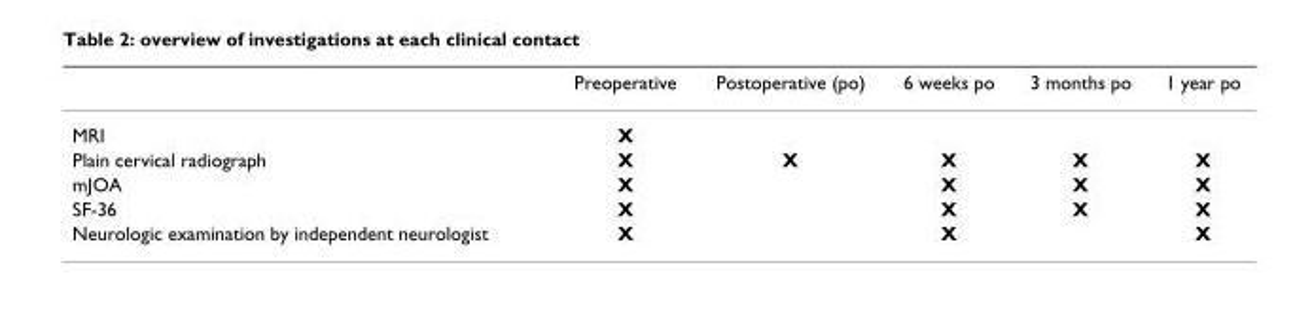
<table><thead><tr><td></td><td>Preoperative</td><td>Postoperative (po)</td><td>6 weeks po</td><td>3 months po</td><td>1 year po</td></tr></thead><tbody><tr><td>MRI</td><td>X</td><td></td><td></td><td></td><td></td></tr><tr><td>Plain cervical radiograph</td><td>X</td><td>X</td><td>X</td><td>X</td><td>X</td></tr><tr><td>mJOA</td><td>X</td><td></td><td>X</td><td>X</td><td>X</td></tr><tr><td>SF-36</td><td>X</td><td></td><td>X</td><td>X</td><td>X</td></tr><tr><td>Neurologic examination by independent neurologist</td><td>X</td><td></td><td>X</td><td></td><td>X</td></tr></tbody></table>